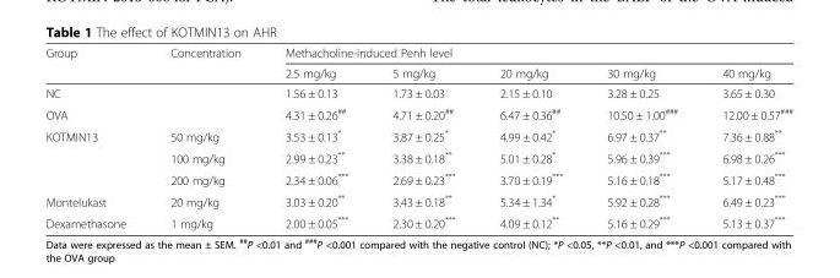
<table><thead><tr><td rowspan="2">Group</td><td rowspan="2">Concentration</td><td colspan="5">Methacholine-induced Penh level</td></tr><tr><td>2.5 mg/kg</td><td>5 mg/kg</td><td>20 mg/kg</td><td>30 mg/kg</td><td>40 mg/kg</td></tr></thead><tbody><tr><td>NC</td><td></td><td>1.56 ± 0.13</td><td>1.73 ± 0.03</td><td>2.15 ± 0.10</td><td>3.28 ± 0.25</td><td>3.65 ± 0.30</td></tr><tr><td>OVA</td><td></td><td>4.31 ± 0.26<sup>##</sup></td><td>4.71 ± 0.20<sup>##</sup></td><td>6.47 ± 0.36<sup>##</sup></td><td>10.50 ± 1.00<sup>###</sup></td><td>12.00 ± 0.57<sup>###</sup></td></tr><tr><td rowspan="3">KOTMIN13</td><td>50 mg/kg</td><td>3.53 ± 0.13*</td><td>3.87 ± 0.25*</td><td>4.99 ± 0.42*</td><td>6.97 ± 0.37**</td><td>7.36 ± 0.88**</td></tr><tr><td>100 mg/kg</td><td>2.99 ± 0.23**</td><td>3.38 ± 0.18**</td><td>5.01 ± 0.28*</td><td>5.96 ± 0.39***</td><td>6.98 ± 0.26***</td></tr><tr><td>200 mg/kg</td><td>2.34 ± 0.06***</td><td>2.69 ± 0.23***</td><td>3.70 ± 0.19***</td><td>5.16 ± 0.18***</td><td>5.17 ± 0.48***</td></tr><tr><td>Montelukast</td><td>20 mg/kg</td><td>3.03 ± 0.20**</td><td>3.43 ± 0.18**</td><td>5.34 ± 1.34*</td><td>5.92 ± 0.28***</td><td>6.49 ± 0.23***</td></tr><tr><td>Dexamethasone</td><td>1 mg/kg</td><td>2.00 ± 0.05***</td><td>2.30 ± 0.20***</td><td>4.09 ± 0.12**</td><td>5.16 ± 0.29***</td><td>5.13 ± 0.37***</td></tr></tbody></table>